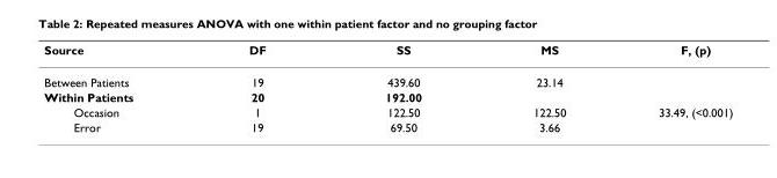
<table><thead><tr><td>Source</td><td>DF</td><td>SS</td><td>MS</td><td>F, (p)</td></tr></thead><tbody><tr><td>Between Patients</td><td>19</td><td>439.60</td><td>23.14</td><td></td></tr><tr><td>Within Patients</td><td>20</td><td>192.00</td><td></td><td></td></tr><tr><td>Occasion</td><td>1</td><td>122.50</td><td>122.50</td><td>33.49, (&lt;0.001)</td></tr><tr><td>Error</td><td>19</td><td>69.50</td><td>3.66</td><td></td></tr></tbody></table>